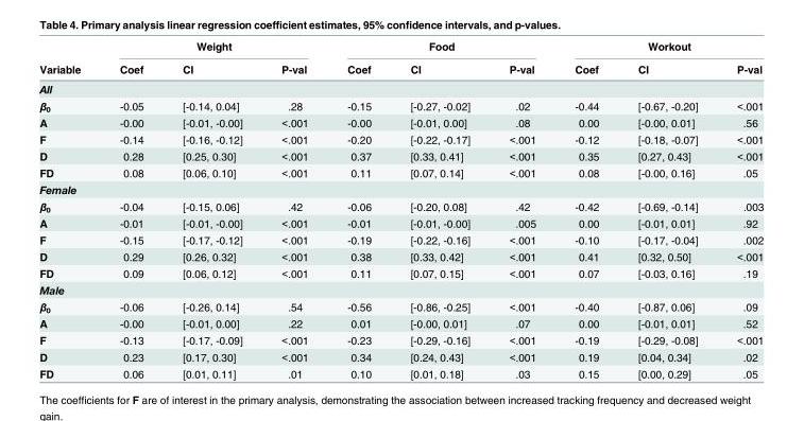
<table><thead><tr><td rowspan="2">Variable</td><td colspan="3">Weight</td><td colspan="3">Food</td><td colspan="3">Workout</td></tr><tr><td>Coef</td><td>CI</td><td>P-val</td><td>Coef</td><td>CI</td><td>P-val</td><td>Coef</td><td>CI</td><td>P-val</td></tr></thead><tbody><tr><td colspan="10">All</td></tr><tr><td>β<sub>0</sub></td><td>-0.05</td><td>[-0.14, 0.04]</td><td>.28</td><td>-0.15</td><td>[-0.27, -0.02]</td><td>.02</td><td>-0.44</td><td>[-0.67, -0.20]</td><td>&lt;.001</td></tr><tr><td>A</td><td>-0.00</td><td>[-0.01, -0.00]</td><td>&lt;.001</td><td>-0.00</td><td>[-0.01, 0.00]</td><td>.08</td><td>0.00</td><td>[-0.00, 0.01]</td><td>.56</td></tr><tr><td>F</td><td>-0.14</td><td>[-0.16, -0.12]</td><td>&lt;.001</td><td>-0.20</td><td>[-0.22, -0.17]</td><td>&lt;.001</td><td>-0.12</td><td>[-0.18, -0.07]</td><td>&lt;.001</td></tr><tr><td>D</td><td>0.28</td><td>[0.25, 0.30]</td><td>&lt;.001</td><td>0.37</td><td>[0.33, 0.41]</td><td>&lt;.001</td><td>0.35</td><td>[0.27, 0.43]</td><td>&lt;.001</td></tr><tr><td>FD</td><td>0.08</td><td>[0.06, 0.10]</td><td>&lt;.001</td><td>0.11</td><td>[0.07, 0.14]</td><td>&lt;.001</td><td>0.08</td><td>[-0.00, 0.16]</td><td>.05</td></tr><tr><td colspan="10">Female</td></tr><tr><td>β<sub>0</sub></td><td>-0.04</td><td>[-0.15, 0.06]</td><td>.42</td><td>-0.06</td><td>[-0.20, 0.08]</td><td>.42</td><td>-0.42</td><td>[-0.69, -0.14]</td><td>.003</td></tr><tr><td>A</td><td>-0.01</td><td>[-0.01, -0.00]</td><td>&lt;.001</td><td>-0.01</td><td>[-0.01, -0.00]</td><td>.005</td><td>0.00</td><td>[-0.01, 0.01]</td><td>.92</td></tr><tr><td>F</td><td>-0.15</td><td>[-0.17, -0.12]</td><td>&lt;.001</td><td>-0.19</td><td>[-0.22, -0.16]</td><td>&lt;.001</td><td>-0.10</td><td>[-0.17, -0.04]</td><td>.002</td></tr><tr><td>D</td><td>0.29</td><td>[0.26, 0.32]</td><td>&lt;.001</td><td>0.38</td><td>[0.33, 0.42]</td><td>&lt;.001</td><td>0.41</td><td>[0.32, 0.50]</td><td>&lt;.001</td></tr><tr><td>FD</td><td>0.09</td><td>[0.06, 0.12]</td><td>&lt;.001</td><td>0.11</td><td>[0.07, 0.15]</td><td>&lt;.001</td><td>0.07</td><td>[-0.03, 0.16]</td><td>.19</td></tr><tr><td colspan="10">Male</td></tr><tr><td>β<sub>0</sub></td><td>-0.06</td><td>[-0.26, 0.14]</td><td>.54</td><td>-0.56</td><td>[-0.86, -0.25]</td><td>&lt;.001</td><td>-0.40</td><td>[-0.87, 0.06]</td><td>.09</td></tr><tr><td>A</td><td>-0.00</td><td>[-0.01, 0.00]</td><td>.22</td><td>0.01</td><td>[-0.00, 0.01]</td><td>.07</td><td>0.00</td><td>[-0.01, 0.01]</td><td>.52</td></tr><tr><td>F</td><td>-0.13</td><td>[-0.17, -0.09]</td><td>&lt;.001</td><td>-0.23</td><td>[-0.29, -0.16]</td><td>&lt;.001</td><td>-0.19</td><td>[-0.29, -0.08]</td><td>&lt;.001</td></tr><tr><td>D</td><td>0.23</td><td>[0.17, 0.30]</td><td>&lt;.001</td><td>0.34</td><td>[0.24, 0.43]</td><td>&lt;.001</td><td>0.19</td><td>[0.04, 0.34]</td><td>.02</td></tr><tr><td>FD</td><td>0.06</td><td>[0.01, 0.11]</td><td>.01</td><td>0.10</td><td>[0.01, 0.18]</td><td>.03</td><td>0.15</td><td>[0.00, 0.29]</td><td>.05</td></tr></tbody></table>